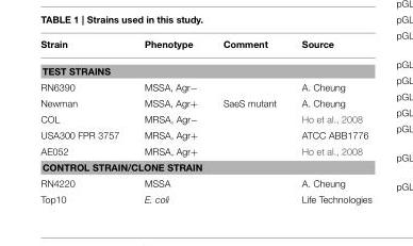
<table><thead><tr><td>Strain</td><td>Phenotype</td><td>Comment</td><td>Source</td></tr></thead><tbody><tr><td colspan="4">TEST STRAINS</td></tr><tr><td>RN6390</td><td>MSSA, Agr−</td><td></td><td>A. Cheung</td></tr><tr><td>Newman</td><td>MSSA, Agr+</td><td>SaeS mutant</td><td>A. Cheung</td></tr><tr><td>COL</td><td>MRSA, Agr−</td><td></td><td>Ho et al., 2008</td></tr><tr><td>USA300 FPR 3757</td><td>MRSA, Agr+</td><td></td><td>ATCC ABB1776</td></tr><tr><td>AE052</td><td>MRSA, Agr+</td><td></td><td>Ho et al., 2008</td></tr><tr><td colspan="4">CONTROL STRAIN/CLONE STRAIN</td></tr><tr><td>RN4220</td><td>MSSA</td><td></td><td>A. Cheung</td></tr><tr><td>Top10</td><td>E. coli</td><td></td><td>Life Technologies</td></tr></tbody></table>